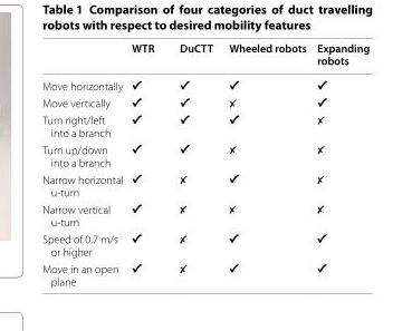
<table><thead><tr><td></td><td>WTR</td><td>DuCTT</td><td>Wheeled robots</td><td>Expanding robots</td></tr></thead><tbody><tr><td>Move horizontally</td><td>✔</td><td>✔</td><td>✔</td><td>✔</td></tr><tr><td>Move vertically</td><td>✔</td><td>✔</td><td>✗</td><td>✔</td></tr><tr><td>Turn right/left into a branch</td><td>✔</td><td>✔</td><td>✔</td><td>✗</td></tr><tr><td>Turn up/down into a branch</td><td>✔</td><td>✔</td><td>✗</td><td>✗</td></tr><tr><td>Narrow horizontal u-turn</td><td>✔</td><td>✗</td><td>✔</td><td>✗</td></tr><tr><td>Narrow vertical u-turn</td><td>✔</td><td>✗</td><td>✗</td><td>✗</td></tr><tr><td>Speed of 0.7 m/s or higher</td><td>✔</td><td>✗</td><td>✔</td><td>✔</td></tr><tr><td>Move in an open plane</td><td>✔</td><td>✗</td><td>✔</td><td>✔</td></tr></tbody></table>